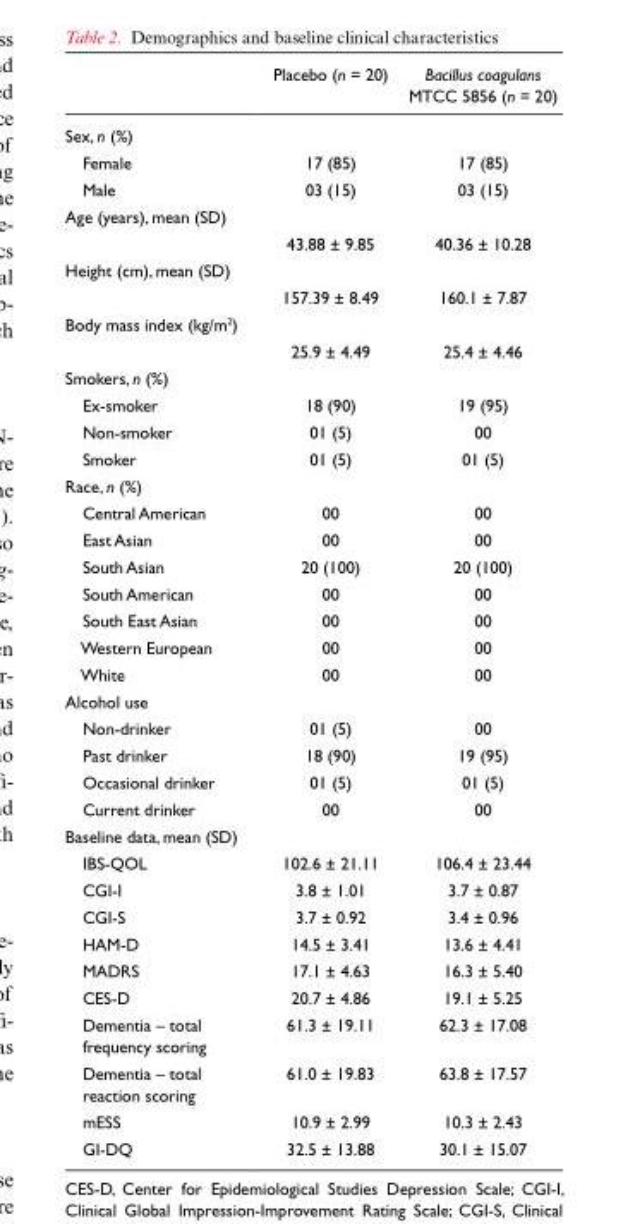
<table><thead><tr><td></td><td>Placebo (n = 20)</td><td>Bacillus coagulans MTCC 5856 (n = 20)</td></tr></thead><tbody><tr><td colspan="3">Sex, n (%)</td></tr><tr><td>Female</td><td>17 (85)</td><td>17 (85)</td></tr><tr><td>Male</td><td>03 (15)</td><td>03 (15)</td></tr><tr><td colspan="3">Age (years), mean (SD)</td></tr><tr><td></td><td>43.88 ± 9.85</td><td>40.36 ± 10.28</td></tr><tr><td colspan="3">Height (cm), mean (SD)</td></tr><tr><td></td><td>157.39 ± 8.49</td><td>160.1 ± 7.87</td></tr><tr><td colspan="3">Body mass index (kg/m2)</td></tr><tr><td></td><td>25.9 ± 4.49</td><td>25.4 ± 4.46</td></tr><tr><td colspan="3">Smokers, n (%)</td></tr><tr><td>Ex-smoker</td><td>18 (90)</td><td>19 (95)</td></tr><tr><td>Non-smoker</td><td>01 (5)</td><td>00</td></tr><tr><td>Smoker</td><td>01 (5)</td><td>01 (5)</td></tr><tr><td colspan="3">Race, n (%)</td></tr><tr><td>Central American</td><td>00</td><td>00</td></tr><tr><td>East Asian</td><td>00</td><td>00</td></tr><tr><td>South Asian</td><td>20 (100)</td><td>20 (100)</td></tr><tr><td>South American</td><td>00</td><td>00</td></tr><tr><td>South East Asian</td><td>00</td><td>00</td></tr><tr><td>Western European</td><td>00</td><td>00</td></tr><tr><td>White</td><td>00</td><td>00</td></tr><tr><td colspan="3">Alcohol use</td></tr><tr><td>Non-drinker</td><td>01 (5)</td><td>00</td></tr><tr><td>Past drinker</td><td>18 (90)</td><td>19 (95)</td></tr><tr><td>Occasional drinker</td><td>01 (5)</td><td>01 (5)</td></tr><tr><td>Current drinker</td><td>00</td><td>00</td></tr><tr><td colspan="3">Baseline data, mean (SD)</td></tr><tr><td>IBS-QOL</td><td>102.6 ± 21.11</td><td>106.4 ± 23.44</td></tr><tr><td>CGI-I</td><td>3.8 ± 1.01</td><td>3.7 ± 0.87</td></tr><tr><td>CGI-S</td><td>3.7 ± 0.92</td><td>3.4 ± 0.96</td></tr><tr><td>HAM-D</td><td>14.5 ± 3.41</td><td>13.6 ± 4.41</td></tr><tr><td>MADRS</td><td>17.1 ± 4.63</td><td>16.3 ± 5.40</td></tr><tr><td>CES-D</td><td>20.7 ± 4.86</td><td>19.1 ± 5.25</td></tr><tr><td>Dementia – total frequency scoring</td><td>61.3 ± 19.11</td><td>62.3 ± 17.08</td></tr><tr><td>Dementia – total reaction scoring</td><td>61.0 ± 19.83</td><td>63.8 ± 17.57</td></tr><tr><td>mESS</td><td>10.9 ± 2.99</td><td>10.3 ± 2.43</td></tr><tr><td>GI-DQ</td><td>32.5 ± 13.88</td><td>30.1 ± 15.07</td></tr></tbody></table>